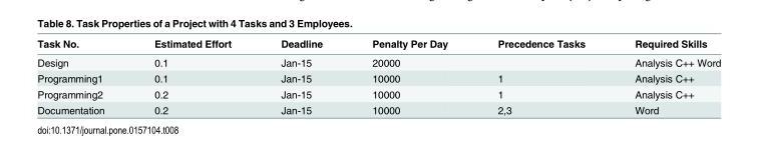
<table><thead><tr><td>Task No.</td><td>Estimated Effort</td><td>Deadline</td><td>Penalty Per Day</td><td>Precedence Tasks</td><td>Required Skills</td></tr></thead><tbody><tr><td>Design</td><td>0.1</td><td>Jan-15</td><td>20000</td><td></td><td>Analysis C++ Word</td></tr><tr><td>Programming1</td><td>0.1</td><td>Jan-15</td><td>10000</td><td>1</td><td>Analysis C++</td></tr><tr><td>Programming2</td><td>0.2</td><td>Jan-15</td><td>10000</td><td>1</td><td>Analysis C++</td></tr><tr><td>Documentation</td><td>0.2</td><td>Jan-15</td><td>10000</td><td>2,3</td><td>Word</td></tr></tbody></table>